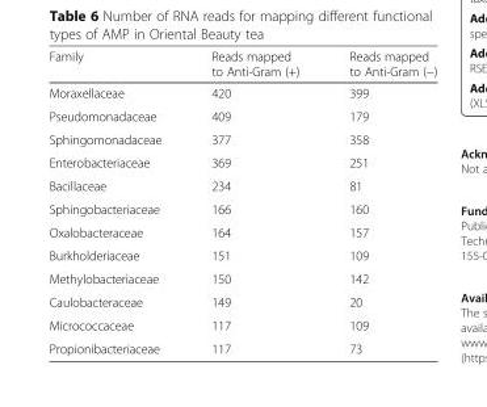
<table><thead><tr><td>Family</td><td>Reads mapped to Anti-Gram (+)</td><td>Reads mapped to Anti-Gram (−)</td></tr></thead><tbody><tr><td>Moraxellaceae</td><td>420</td><td>399</td></tr><tr><td>Pseudomonadaceae</td><td>409</td><td>179</td></tr><tr><td>Sphingomonadaceae</td><td>377</td><td>358</td></tr><tr><td>Enterobacteriaceae</td><td>369</td><td>251</td></tr><tr><td>Bacillaceae</td><td>234</td><td>81</td></tr><tr><td>Sphingobacteriaceae</td><td>166</td><td>160</td></tr><tr><td>Oxalobacteraceae</td><td>164</td><td>157</td></tr><tr><td>Burkholderiaceae</td><td>151</td><td>109</td></tr><tr><td>Methylobacteriaceae</td><td>150</td><td>142</td></tr><tr><td>Caulobacteraceae</td><td>149</td><td>20</td></tr><tr><td>Micrococcaceae</td><td>117</td><td>109</td></tr><tr><td>Propionibacteriaceae</td><td>117</td><td>73</td></tr></tbody></table>